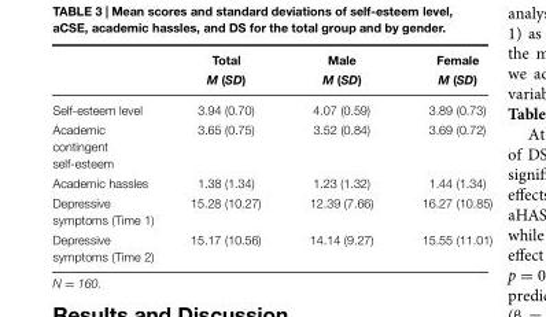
<table><thead><tr><td rowspan="2"></td><td rowspan="2">Total M (SD)</td><td rowspan="2">Male M (SD)</td><td rowspan="2">Female M (SD)</td></tr><tr></tr></thead><tbody><tr><td>Self-esteem level</td><td>3.94 (0.70)</td><td>4.07 (0.59)</td><td>3.89 (0.73)</td></tr><tr><td>Academic contingent self-esteem</td><td>3.65 (0.75)</td><td>3.52 (0.84)</td><td>3.69 (0.72)</td></tr><tr><td>Academic hassles</td><td>1.38 (1.34)</td><td>1.23 (1.32)</td><td>1.44 (1.34)</td></tr><tr><td>Depressive symptoms (Time 1)</td><td>15.28 (10.27)</td><td>12.39 (7.66)</td><td>16.27 (10.85)</td></tr><tr><td>Depressive symptoms (Time 2)</td><td>15.17 (10.56)</td><td>14.14 (9.27)</td><td>15.55 (11.01)</td></tr></tbody></table>